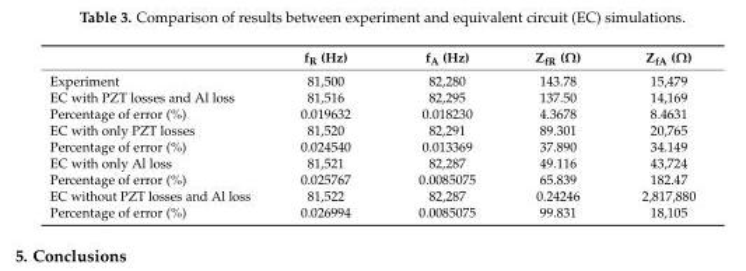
<table><thead><tr><td></td><td>f<sub>R</sub> (Hz)</td><td>f<sub>A</sub> (Hz)</td><td>Z<sub>fR</sub> (Ω)</td><td>Z<sub>fA</sub> (Ω)</td></tr></thead><tbody><tr><td>Experiment</td><td>81,500</td><td>82,280</td><td>143.78</td><td>15,479</td></tr><tr><td>EC with PZT losses and Al loss</td><td>81,516</td><td>82,295</td><td>137.50</td><td>14,169</td></tr><tr><td>Percentage of error (%)</td><td>0.019632</td><td>0.018230</td><td>4.3678</td><td>8.4631</td></tr><tr><td>EC with only PZT losses</td><td>81,520</td><td>82,291</td><td>89.301</td><td>20,765</td></tr><tr><td>Percentage of error (%)</td><td>0.024540</td><td>0.013369</td><td>37.890</td><td>34.149</td></tr><tr><td>EC with only Al loss</td><td>81,521</td><td>82,287</td><td>49.116</td><td>43,724</td></tr><tr><td>Percentage of error (%)</td><td>0.025767</td><td>0.0085075</td><td>65.839</td><td>182.47</td></tr><tr><td>EC without PZT losses and Al loss</td><td>81,522</td><td>82,287</td><td>0.24246</td><td>2,817,880</td></tr><tr><td>Percentage of error (%)</td><td>0.026994</td><td>0.0085075</td><td>99.831</td><td>18,105</td></tr></tbody></table>